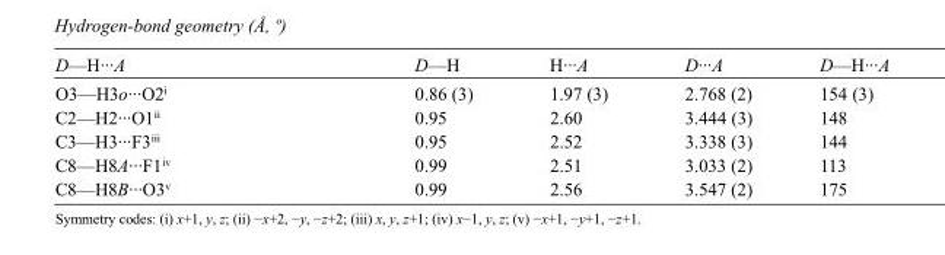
<table><tbody><tr><td>D—H···A</td><td>D—H</td><td>H···A</td><td>D···A</td><td>D—H···A</td></tr><tr><td>O3—H3o···O2<sup>i</sup></td><td>0.86 (3)</td><td>1.97 (3)</td><td>2.768 (2)</td><td>154 (3)</td></tr><tr><td>C2—H2···O1<sup>ii</sup></td><td>0.95</td><td>2.60</td><td>3.444 (3)</td><td>148</td></tr><tr><td>C3—H3···F3<sup>iii</sup></td><td>0.95</td><td>2.52</td><td>3.338 (3)</td><td>144</td></tr><tr><td>C8—H8A···F1<sup>iv</sup></td><td>0.99</td><td>2.51</td><td>3.033 (2)</td><td>113</td></tr><tr><td>C8—H8B···O3<sup>v</sup></td><td>0.99</td><td>2.56</td><td>3.547 (2)</td><td>175</td></tr></tbody></table>